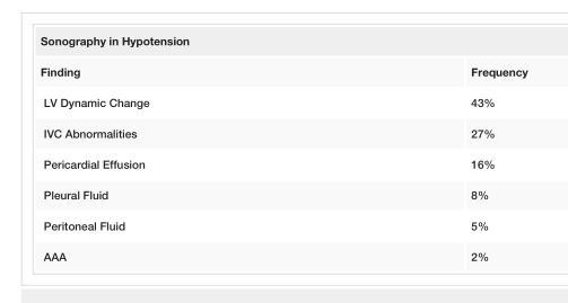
<table><tbody><tr><td colspan="2">Sonography in Hypotension</td></tr><tr><td>Finding</td><td>Frequency</td></tr><tr><td>LV Dynamic Change</td><td>43%</td></tr><tr><td>IVC Abnormalities</td><td>27%</td></tr><tr><td>Pericardial Effusion</td><td>16%</td></tr><tr><td>Pleural Fluid</td><td>8%</td></tr><tr><td>Peritoneal Fluid</td><td>5%</td></tr><tr><td>AAA</td><td>2%</td></tr></tbody></table>